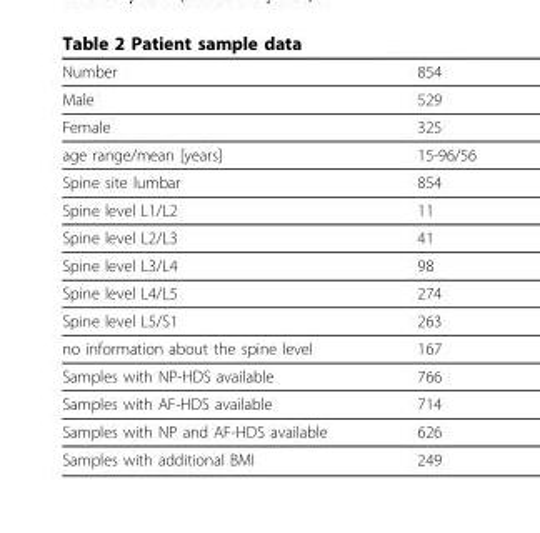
<table><thead><tr><td>Number</td><td>854</td></tr></thead><tbody><tr><td>Male</td><td>529</td></tr><tr><td>Female</td><td>325</td></tr><tr><td>age range/mean [years]</td><td>15-96/56</td></tr><tr><td>Spine site lumbar</td><td>854</td></tr><tr><td>Spine level L1/L2</td><td>11</td></tr><tr><td>Spine level L2/L3</td><td>41</td></tr><tr><td>Spine level L3/L4</td><td>98</td></tr><tr><td>Spine level L4/L5</td><td>274</td></tr><tr><td>Spine level L5/S1</td><td>263</td></tr><tr><td>no information about the spine level</td><td>167</td></tr><tr><td>Samples with NP-HDS available</td><td>766</td></tr><tr><td>Samples with AF-HDS available</td><td>714</td></tr><tr><td>Samples with NP and AF-HDS available</td><td>626</td></tr><tr><td>Samples with additional BMI</td><td>249</td></tr></tbody></table>